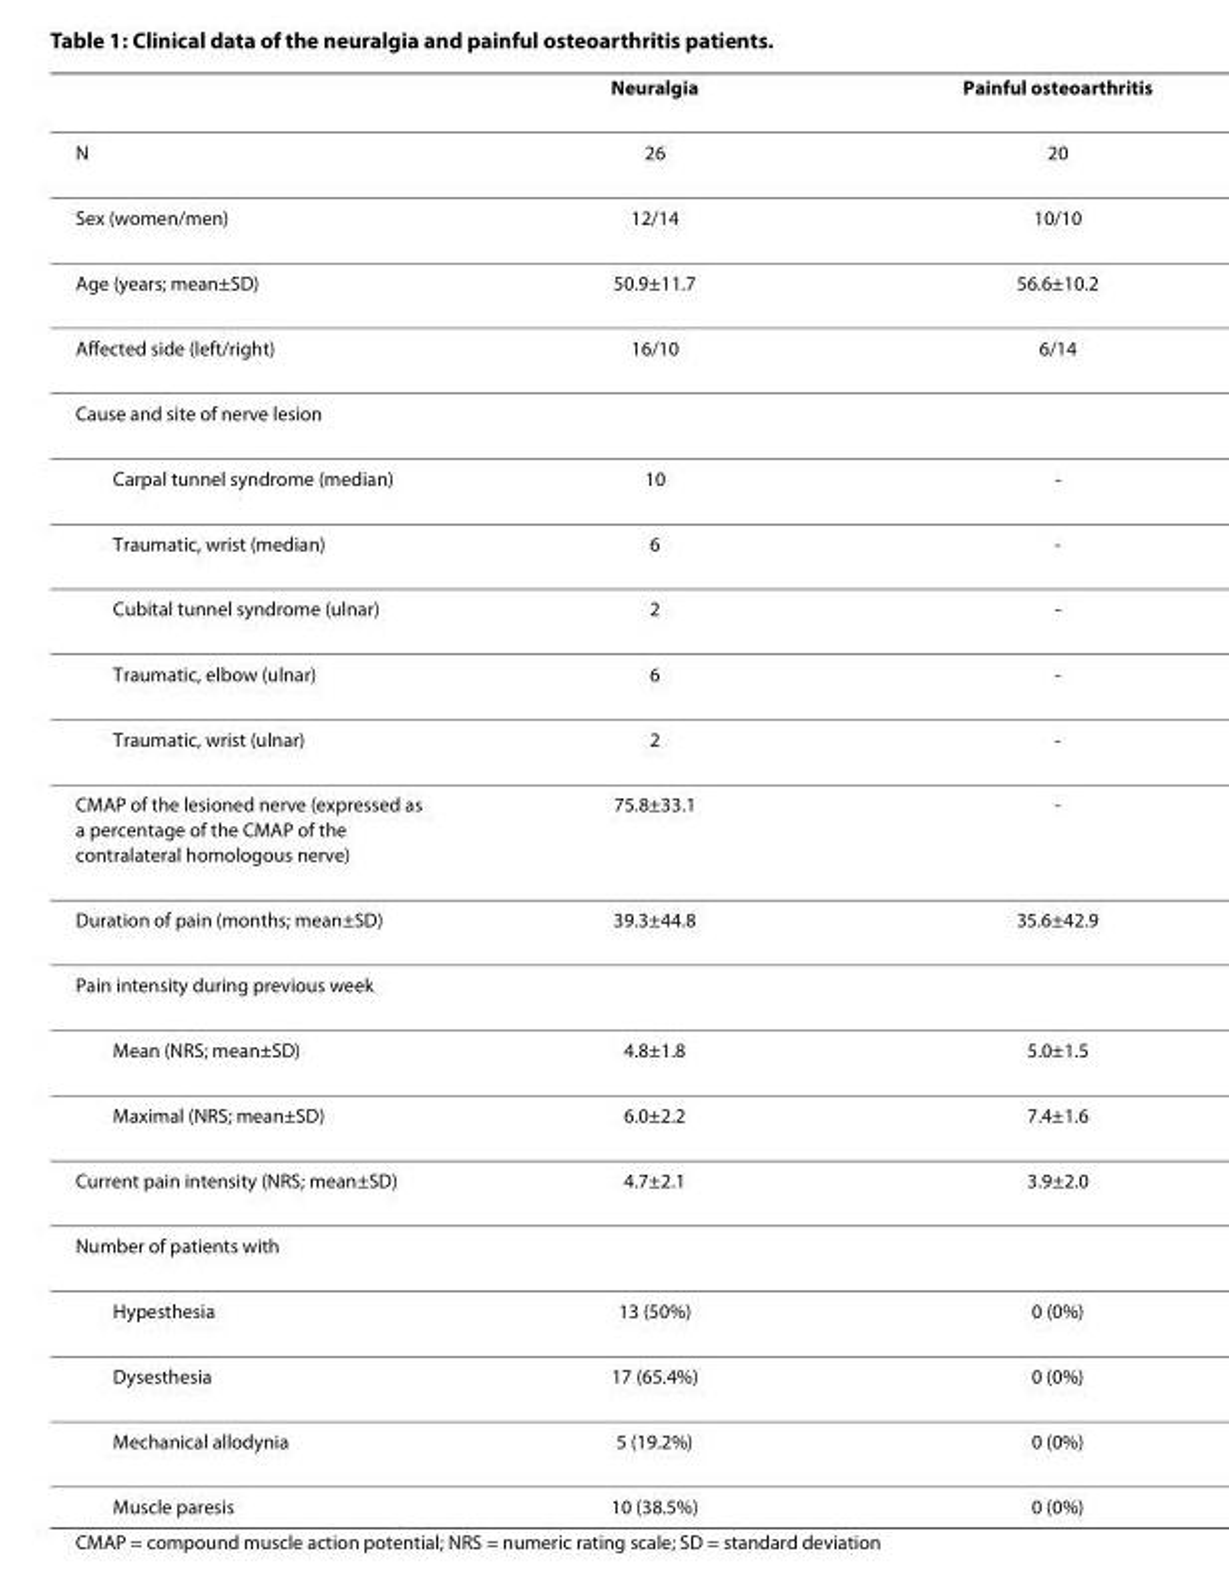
<table><thead><tr><td></td><td>Neuralgia</td><td>Painful osteoarthritis</td></tr></thead><tbody><tr><td>N</td><td>26</td><td>20</td></tr><tr><td>Sex (women/men)</td><td>12/14</td><td>10/10</td></tr><tr><td>Age (years; mean±SD)</td><td>50.9±11.7</td><td>56.6±10.2</td></tr><tr><td>Affected side (left/right)</td><td>16/10</td><td>6/14</td></tr><tr><td colspan="3">Cause and site of nerve lesion</td></tr><tr><td>Carpal tunnel syndrome (median)</td><td>10</td><td>-</td></tr><tr><td>Traumatic, wrist (median)</td><td>6</td><td>-</td></tr><tr><td>Cubital tunnel syndrome (ulnar)</td><td>2</td><td>-</td></tr><tr><td>Traumatic, elbow (ulnar)</td><td>6</td><td>-</td></tr><tr><td>Traumatic, wrist (ulnar)</td><td>2</td><td>-</td></tr><tr><td>CMAP of the lesioned nerve (expressed as a percentage of the CMAP of the contralateral homologous nerve)</td><td>75.8±33.1</td><td>-</td></tr><tr><td>Duration of pain (months; mean±SD)</td><td>39.3±44.8</td><td>35.6±42.9</td></tr><tr><td colspan="3">Pain intensity during previous week</td></tr><tr><td>Mean (NRS; mean±SD)</td><td>4.8±1.8</td><td>5.0±1.5</td></tr><tr><td>Maximal (NRS; mean±SD)</td><td>6.0±2.2</td><td>7.4±1.6</td></tr><tr><td>Current pain intensity (NRS; mean±SD)</td><td>4.7±2.1</td><td>3.9±2.0</td></tr><tr><td colspan="3">Number of patients with</td></tr><tr><td>Hypesthesia</td><td>13 (50%)</td><td>0 (0%)</td></tr><tr><td>Dysesthesia</td><td>17 (65.4%)</td><td>0 (0%)</td></tr><tr><td>Mechanical allodynia</td><td>5 (19.2%)</td><td>0 (0%)</td></tr><tr><td>Muscle paresis</td><td>10 (38.5%)</td><td>0 (0%)</td></tr></tbody></table>